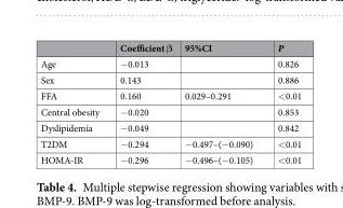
<table><thead><tr><td></td><td>Coefficient β</td><td>95%CI</td><td>P</td></tr></thead><tbody><tr><td>Age</td><td>−0.013</td><td></td><td>0.826</td></tr><tr><td>Sex</td><td>0.143</td><td></td><td>0.886</td></tr><tr><td>FFA</td><td>0.160</td><td>0.029–0.291</td><td>&lt;0.01</td></tr><tr><td>Central obesity</td><td>−0.020</td><td></td><td>0.853</td></tr><tr><td>Dyslipidemia</td><td>−0.049</td><td></td><td>0.842</td></tr><tr><td>T2DM</td><td>−0.294</td><td>−0.497–(−0.090)</td><td>&lt;0.01</td></tr><tr><td>HOMA-IR</td><td>−0.296</td><td>−0.496–(−0.105)</td><td>&lt;0.01</td></tr></tbody></table>